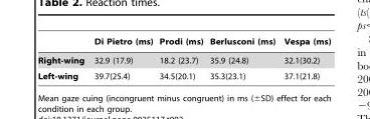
<table><thead><tr><td></td><td>Di Pietro (ms)</td><td>Prodi (ms)</td><td>Berlusconi (ms)</td><td>Vespa (ms)</td></tr></thead><tbody><tr><td>Right-wing</td><td>32.9 (17.9)</td><td>18.2 (23.7)</td><td>35.9 (24.8)</td><td>32.1(30.2)</td></tr><tr><td>Left-wing</td><td>39.7(25.4)</td><td>34.5(20.1)</td><td>35.3(23.1)</td><td>37.1(21.8)</td></tr></tbody></table>